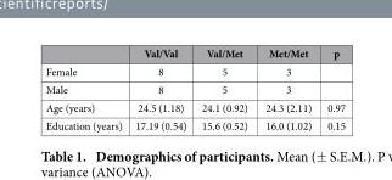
<table><thead><tr><td></td><td>Val/Val</td><td>Val/Met</td><td>Met/Met</td><td>p</td></tr></thead><tbody><tr><td>Female</td><td>8</td><td>5</td><td>3</td><td></td></tr><tr><td>Male</td><td>8</td><td>5</td><td>3</td><td></td></tr><tr><td>Age (years)</td><td>24.5 (1.18)</td><td>24.1 (0.92)</td><td>24.3 (2.11)</td><td>0.97</td></tr><tr><td>Education (years)</td><td>17.19 (0.54)</td><td>15.6 (0.52)</td><td>16.0 (1.02)</td><td>0.15</td></tr></tbody></table>